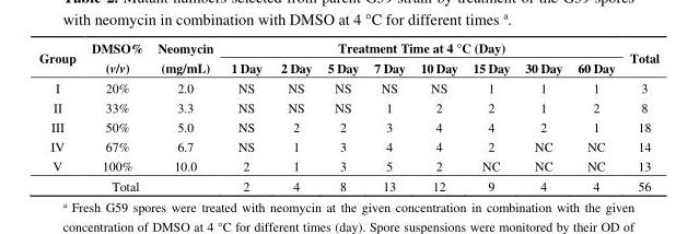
<table><thead><tr><td rowspan="2">Group</td><td rowspan="2">DMSO% (v/v)</td><td rowspan="2">Neomycin (mg/mL)</td><td colspan="8">Treatment Time at 4 °C (Day)</td><td rowspan="2">Total</td></tr><tr><td>1 Day</td><td>2 Day</td><td>5 Day</td><td>7 Day</td><td>10 Day</td><td>15 Day</td><td>30 Day</td><td>60 Day</td></tr></thead><tbody><tr><td>I</td><td>20%</td><td>2.0</td><td>NS</td><td>NS</td><td>NS</td><td>NS</td><td>NS</td><td>1</td><td>1</td><td>1</td><td>3</td></tr><tr><td>II</td><td>33%</td><td>3.3</td><td>NS</td><td>NS</td><td>NS</td><td>1</td><td>2</td><td>2</td><td>1</td><td>2</td><td>8</td></tr><tr><td>III</td><td>50%</td><td>5.0</td><td>NS</td><td>2</td><td>2</td><td>3</td><td>4</td><td>4</td><td>2</td><td>1</td><td>18</td></tr><tr><td>IV</td><td>67%</td><td>6.7</td><td>NS</td><td>1</td><td>3</td><td>4</td><td>4</td><td>2</td><td>NC</td><td>NC</td><td>14</td></tr><tr><td>V</td><td>100%</td><td>10.0</td><td>2</td><td>1</td><td>3</td><td>5</td><td>2</td><td>NC</td><td>NC</td><td>NC</td><td>13</td></tr><tr><td colspan="3">Total</td><td>2</td><td>4</td><td>8</td><td>13</td><td>12</td><td>9</td><td>4</td><td>4</td><td>56</td></tr></tbody></table>